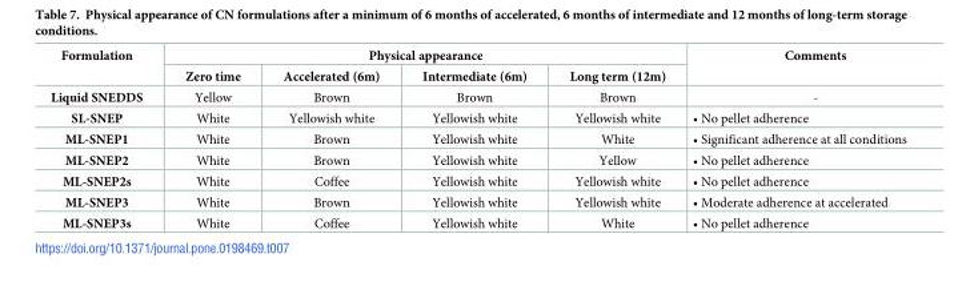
<table><thead><tr><td rowspan="2">Formulation</td><td colspan="4">Physical appearance</td><td rowspan="2">Comments</td></tr><tr><td>Zero time</td><td>Accelerated (6m)</td><td>Intermediate (6m)</td><td>Long term (12m)</td></tr></thead><tbody><tr><td>Liquid SNEDDS</td><td>Yellow</td><td>Brown</td><td>Brown</td><td>Brown</td><td>-</td></tr><tr><td>SL-SNEP</td><td>White</td><td>Yellowish white</td><td>Yellowish white</td><td>Yellowish white</td><td>• No pellet adherence</td></tr><tr><td>ML-SNEP1</td><td>White</td><td>Brown</td><td>Yellowish white</td><td>White</td><td>• Significant adherence at all conditions</td></tr><tr><td>ML-SNEP2</td><td>White</td><td>Brown</td><td>Yellowish white</td><td>Yellow</td><td>• No pellet adherence</td></tr><tr><td>ML-SNEP2s</td><td>White</td><td>Coffee</td><td>Yellowish white</td><td>Yellowish white</td><td>• No pellet adherence</td></tr><tr><td>ML-SNEP3</td><td>White</td><td>Brown</td><td>Yellowish white</td><td>Yellowish white</td><td>• Moderate adherence at accelerated</td></tr><tr><td>ML-SNEP3s</td><td>White</td><td>Coffee</td><td>Yellowish white</td><td>White</td><td>• No pellet adherence</td></tr></tbody></table>